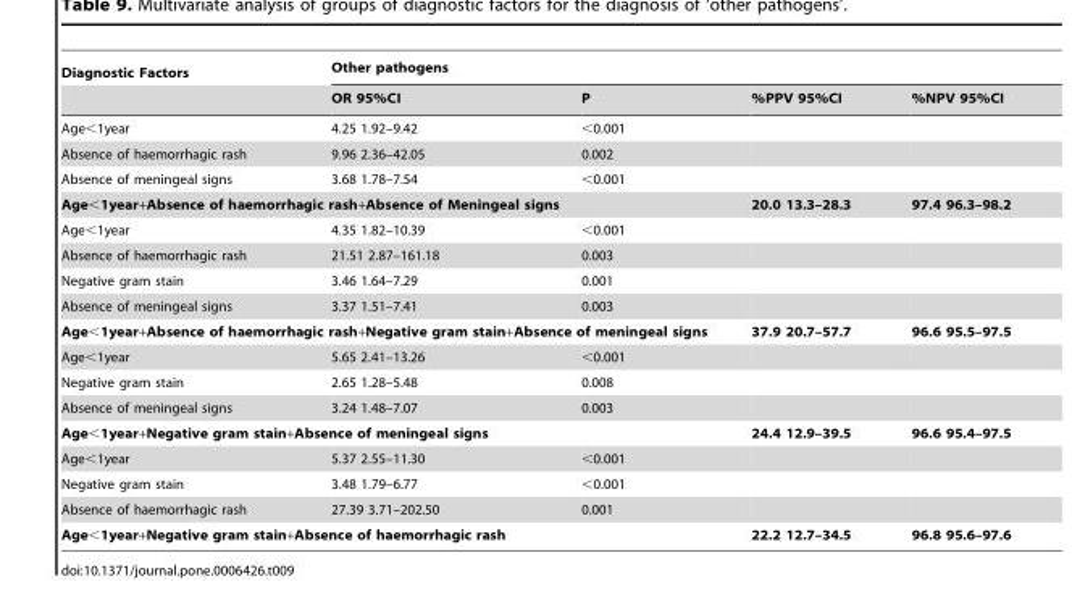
<table><thead><tr><td rowspan="2">Diagnostic Factors</td><td colspan="4">Other pathogens</td></tr><tr><td>OR 95%CI</td><td>P</td><td>%PPV 95%CI</td><td>%NPV 95%CI</td></tr></thead><tbody><tr><td>Age&lt;1year</td><td>4.25 1.92–9.42</td><td>&lt;0.001</td><td></td><td></td></tr><tr><td>Absence of haemorrhagic rash</td><td>9.96 2.36–42.05</td><td>0.002</td><td></td><td></td></tr><tr><td>Absence of meningeal signs</td><td>3.68 1.78–7.54</td><td>&lt;0.001</td><td></td><td></td></tr><tr><td colspan="3">Age&lt;1year+Absence of haemorrhagic rash+Absence of Meningeal signs</td><td>20.0 13.3–28.3</td><td>97.4 96.3–98.2</td></tr><tr><td>Age&lt;1year</td><td>4.35 1.82–10.39</td><td>&lt;0.001</td><td></td><td></td></tr><tr><td>Absence of haemorrhagic rash</td><td>21.51 2.87–161.18</td><td>0.003</td><td></td><td></td></tr><tr><td>Negative gram stain</td><td>3.46 1.64–7.29</td><td>0.001</td><td></td><td></td></tr><tr><td>Absence of meningeal signs</td><td>3.37 1.51–7.41</td><td>0.003</td><td></td><td></td></tr><tr><td colspan="3">Age&lt;1year+Absence of haemorrhagic rash+Negative gram stain+Absence of meningeal signs</td><td>37.9 20.7–57.7</td><td>96.6 95.5–97.5</td></tr><tr><td>Age&lt;1year</td><td>5.65 2.41–13.26</td><td>&lt;0.001</td><td></td><td></td></tr><tr><td>Negative gram stain</td><td>2.65 1.28–5.48</td><td>0.008</td><td></td><td></td></tr><tr><td>Absence of meningeal signs</td><td>3.24 1.48–7.07</td><td>0.003</td><td></td><td></td></tr><tr><td colspan="3">Age&lt;1year+Negative gram stain+Absence of meningeal signs</td><td>24.4 12.9–39.5</td><td>96.6 95.4–97.5</td></tr><tr><td>Age&lt;1year</td><td>5.37 2.55–11.30</td><td>&lt;0.001</td><td></td><td></td></tr><tr><td>Negative gram stain</td><td>3.48 1.79–6.77</td><td>&lt;0.001</td><td></td><td></td></tr><tr><td>Absence of haemorrhagic rash</td><td>27.39 3.71–202.50</td><td>0.001</td><td></td><td></td></tr><tr><td colspan="3">Age&lt;1year+Negative gram stain+Absence of haemorrhagic rash</td><td>22.2 12.7–34.5</td><td>96.8 95.6–97.6</td></tr></tbody></table>